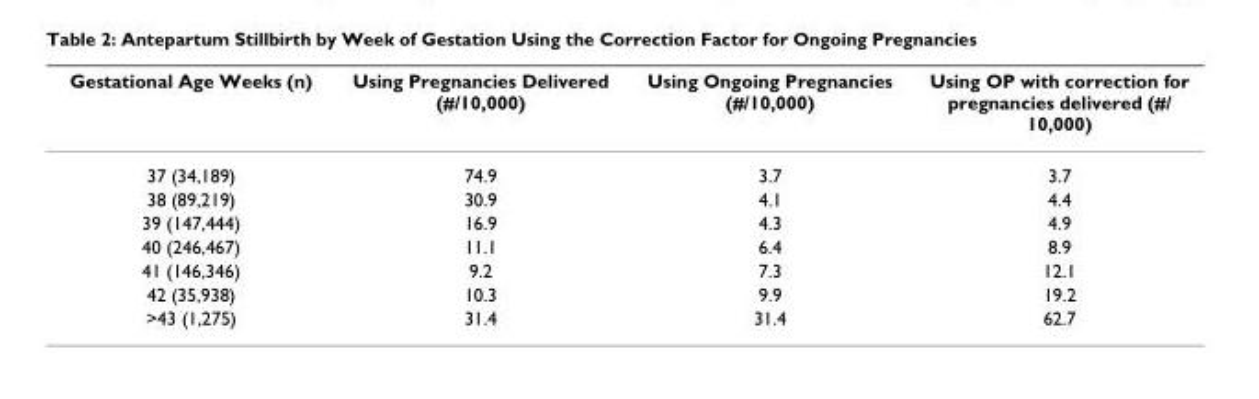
<table><thead><tr><td>Gestational Age Weeks (n)</td><td>Using Pregnancies Delivered (#/10,000)</td><td>Using Ongoing Pregnancies (#/10,000)</td><td>Using OP with correction for pregnancies delivered (#/ 10,000)</td></tr></thead><tbody><tr><td>37 (34,189)</td><td>74.9</td><td>3.7</td><td>3.7</td></tr><tr><td>38 (89,219)</td><td>30.9</td><td>4.1</td><td>4.4</td></tr><tr><td>39 (147,444)</td><td>16.9</td><td>4.3</td><td>4.9</td></tr><tr><td>40 (246,467)</td><td>11.1</td><td>6.4</td><td>8.9</td></tr><tr><td>41 (146,346)</td><td>9.2</td><td>7.3</td><td>12.1</td></tr><tr><td>42 (35,938)</td><td>10.3</td><td>9.9</td><td>19.2</td></tr><tr><td>&gt;43 (1,275)</td><td>31.4</td><td>31.4</td><td>62.7</td></tr></tbody></table>